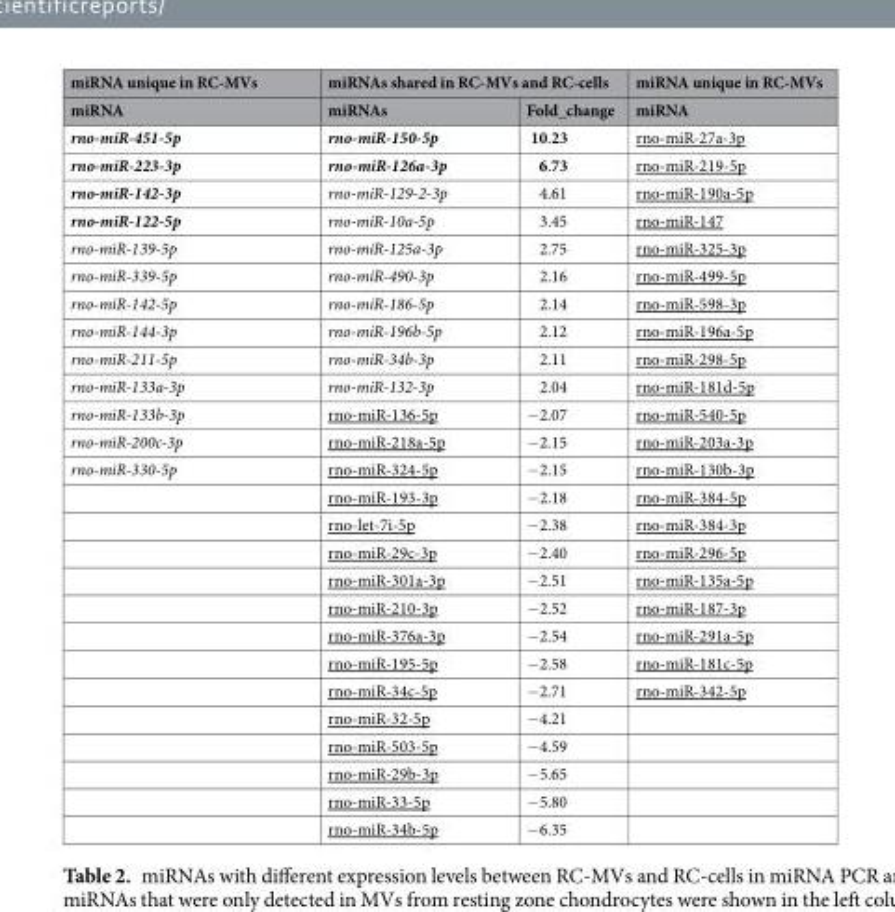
<table><thead><tr><td rowspan="2">miRNA unique in RC-MVs miRNA</td><td colspan="2">miRNAs shared in RC-MVs and RC-cells</td><td rowspan="2">miRNA unique in RC-MVs miRNA</td></tr><tr><td>miRNAs</td><td>Fold_change</td></tr></thead><tbody><tr><td>rno-miR-451-5p</td><td>rno-miR-150-5p</td><td>10.23</td><td>rno-miR-27a-3p</td></tr><tr><td>rno-miR-223-3p</td><td>rno-miR-126a-3p</td><td>6.73</td><td>rno-miR-219-5p</td></tr><tr><td>rno-miR-142-3p</td><td>rno-miR-129-2-3p</td><td>4.61</td><td>rno-miR-190a-5p</td></tr><tr><td>rno-miR-122-5p</td><td>rno-miR-10a-5p</td><td>3.45</td><td>rno-miR-147</td></tr><tr><td>rno-miR-139-5p</td><td>rno-miR-125a-3p</td><td>2.75</td><td>rno-miR-325-3p</td></tr><tr><td>rno-miR-339-5p</td><td>rno-miR-490-3p</td><td>2.16</td><td>rno-miR-499-5p</td></tr><tr><td>rno-miR-142-5p</td><td>rno-miR-186-5p</td><td>2.14</td><td>rno-miR-598-3p</td></tr><tr><td>rno-miR-144-3p</td><td>rno-miR-196b-5p</td><td>2.12</td><td>rno-miR-196a-5p</td></tr><tr><td>rno-miR-211-5p</td><td>rno-miR-34b-3p</td><td>2.11</td><td>rno-miR-298-5p</td></tr><tr><td>rno-miR-133a-3p</td><td>rno-miR-132-3p</td><td>2.04</td><td>rno-miR-181d-5p</td></tr><tr><td>rno-miR-133b-3p</td><td>rno-miR-136-5p</td><td>−2.07</td><td>rno-miR-540-5p</td></tr><tr><td>rno-miR-200c-3p</td><td>rno-miR-218a-5p</td><td>−2.15</td><td>rno-miR-203a-3p</td></tr><tr><td rowspan="14">rno-miR-330-5p</td><td>rno-miR-324-5p</td><td>−2.15</td><td>rno-miR-130b-3p</td></tr><tr><td>rno-miR-193-3p</td><td>−2.18</td><td>rno-miR-384-5p</td></tr><tr><td>rno-let-7i-5p</td><td>−2.38</td><td>rno-miR-384-3p</td></tr><tr><td>rno-miR-29c-3p</td><td>−2.40</td><td>rno-miR-296-5p</td></tr><tr><td>rno-miR-301a-3p</td><td>−2.51</td><td>rno-miR-135a-5p</td></tr><tr><td>rno-miR-210-3p</td><td>−2.52</td><td>rno-miR-187-3p</td></tr><tr><td>rno-miR-376a-3p</td><td>−2.54</td><td>rno-miR-291a-5p</td></tr><tr><td>rno-miR-195-5p</td><td>−2.58</td><td>rno-miR-181c-5p</td></tr><tr><td>rno-miR-34c-5p</td><td>−2.71</td><td>rno-miR-342-5p</td></tr><tr><td>rno-miR-32-5p</td><td>−4.21</td><td></td></tr><tr><td>rno-miR-503-5p</td><td>−4.59</td><td></td></tr><tr><td>rno-miR-29b-3p</td><td>−5.65</td><td></td></tr><tr><td>rno-miR-33-5p</td><td>−5.80</td><td></td></tr><tr><td>rno-miR-34b-5p</td><td>−6.35</td><td></td></tr></tbody></table>